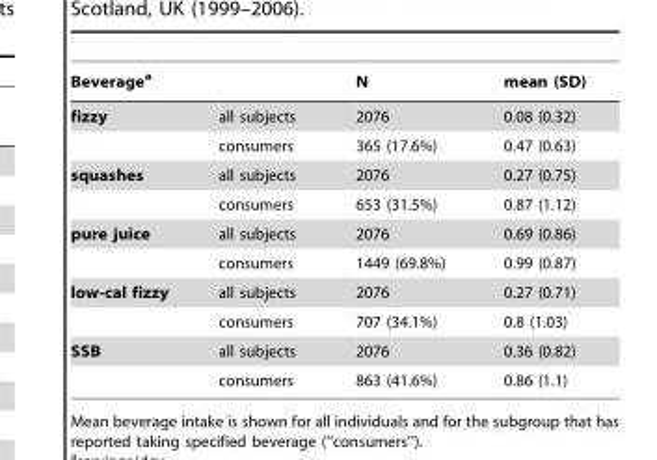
<table><thead><tr><td>Beverage<sup>a</sup></td><td></td><td>N</td><td>mean (SD)</td></tr></thead><tbody><tr><td rowspan="2">fizzy</td><td>all subjects</td><td>2076</td><td>0.08 (0.32)</td></tr><tr><td>consumers</td><td>365 (17.6%)</td><td>0.47 (0.63)</td></tr><tr><td rowspan="2">squashes</td><td>all subjects</td><td>2076</td><td>0.27 (0.75)</td></tr><tr><td>consumers</td><td>653 (31.5%)</td><td>0.87 (1.12)</td></tr><tr><td rowspan="2">pure juice</td><td>all subjects</td><td>2076</td><td>0.69 (0.86)</td></tr><tr><td>consumers</td><td>1449 (69.8%)</td><td>0.99 (0.87)</td></tr><tr><td rowspan="2">low-cal fizzy</td><td>all subjects</td><td>2076</td><td>0.27 (0.71)</td></tr><tr><td>consumers</td><td>707 (34.1%)</td><td>0.8 (1.03)</td></tr><tr><td rowspan="2">SSB</td><td>all subjects</td><td>2076</td><td>0.36 (0.82)</td></tr><tr><td>consumers</td><td>863 (41.6%)</td><td>0.86 (1.1)</td></tr></tbody></table>